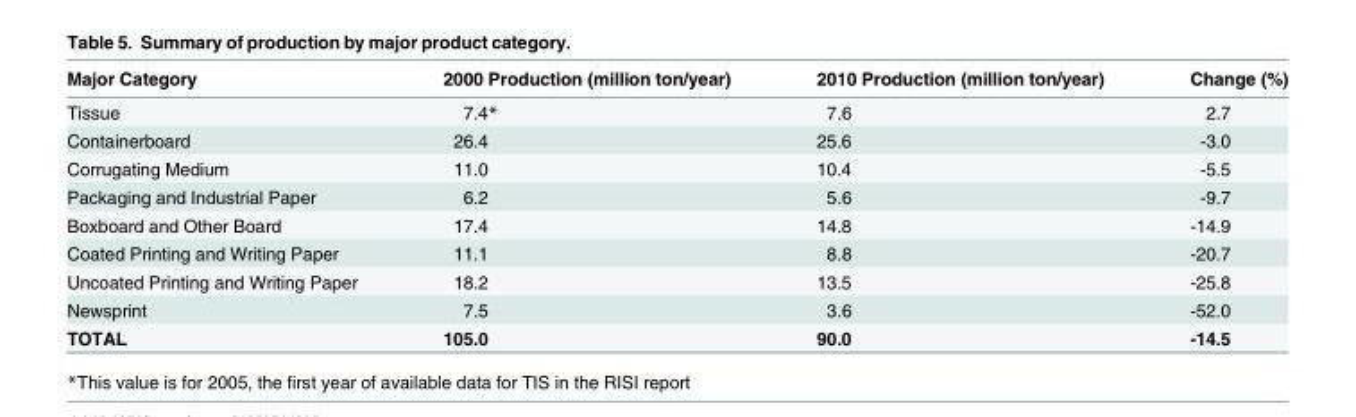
<table><thead><tr><td>Major Category</td><td>2000 Production (million ton/year)</td><td>2010 Production (million ton/year)</td><td>Change (%)</td></tr></thead><tbody><tr><td>Tissue</td><td>7.4*</td><td>7.6</td><td>2.7</td></tr><tr><td>Containerboard</td><td>26.4</td><td>25.6</td><td>-3.0</td></tr><tr><td>Corrugating Medium</td><td>11.0</td><td>10.4</td><td>-5.5</td></tr><tr><td>Packaging and Industrial Paper</td><td>6.2</td><td>5.6</td><td>-9.7</td></tr><tr><td>Boxboard and Other Board</td><td>17.4</td><td>14.8</td><td>-14.9</td></tr><tr><td>Coated Printing and Writing Paper</td><td>11.1</td><td>8.8</td><td>-20.7</td></tr><tr><td>Uncoated Printing and Writing Paper</td><td>18.2</td><td>13.5</td><td>-25.8</td></tr><tr><td>Newsprint</td><td>7.5</td><td>3.6</td><td>-52.0</td></tr><tr><td>TOTAL</td><td>105.0</td><td>90.0</td><td>-14.5</td></tr></tbody></table>